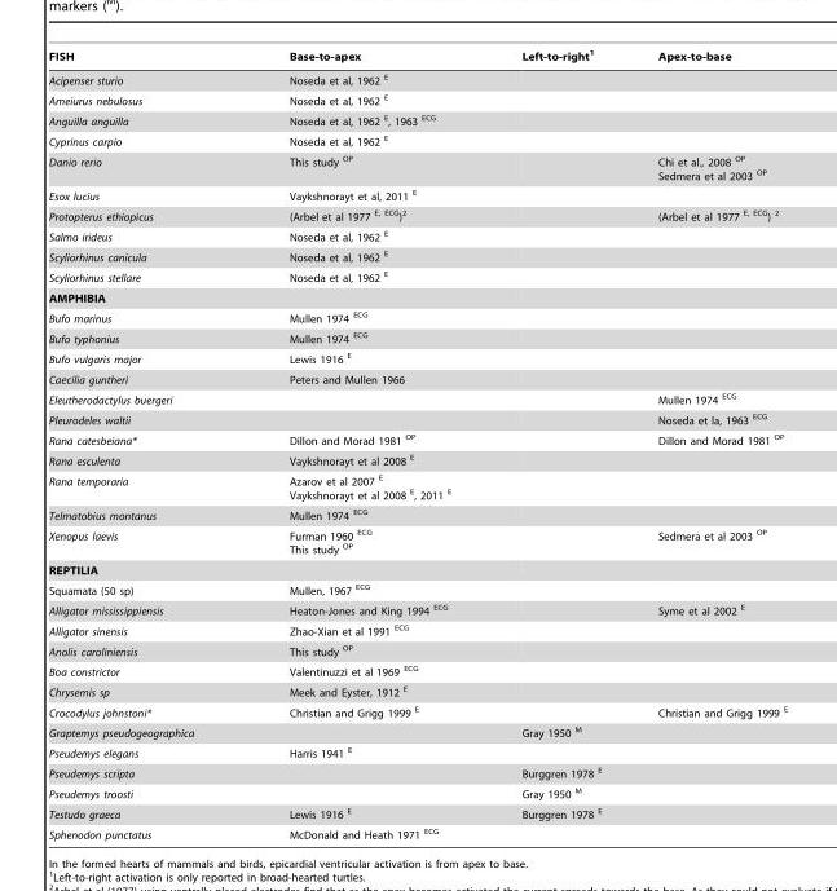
<table><thead><tr><td>FISH</td><td>Base-to-apex</td><td>Left-to-right<sup>1</sup></td><td>Apex-to-base</td></tr></thead><tbody><tr><td>Acipenser sturio</td><td>Noseda et al, 1962 <sup>E</sup></td><td></td><td></td></tr><tr><td>Ameiurus nebulosus</td><td>Noseda et al, 1962 <sup>E</sup></td><td></td><td></td></tr><tr><td>Anguilla anguilla</td><td>Noseda et al, 1962 <sup>E</sup>, 1963 <sup>ECG</sup></td><td></td><td></td></tr><tr><td>Cyprinus carpio</td><td>Noseda et al, 1962 <sup>E</sup></td><td></td><td></td></tr><tr><td>Danio rerio</td><td>This study <sup>OP</sup></td><td></td><td>Chi et al., 2008 <sup>OP</sup> Sedmera et al 2003 <sup>OP</sup></td></tr><tr><td>Esox lucius</td><td>Vaykshnorayt et al, 2011 <sup>E</sup></td><td></td><td></td></tr><tr><td>Protopterus ethiopicus</td><td>(Arbel et al 1977 <sup>E, ECG</sup>)<sup>2</sup></td><td></td><td>(Arbel et al 1977 <sup>E, ECG</sup>) 2</td></tr><tr><td>Salmo irideus</td><td>Noseda et al, 1962 <sup>E</sup></td><td></td><td></td></tr><tr><td>Scyliorhinus canicula</td><td>Noseda et al, 1962 <sup>E</sup></td><td></td><td></td></tr><tr><td>Scyliorhinus stellare</td><td>Noseda et al, 1962 <sup>E</sup></td><td></td><td></td></tr><tr><td colspan="4">AMPHIBIA</td></tr><tr><td>Bufo marinus</td><td>Mullen 1974 <sup>ECG</sup></td><td></td><td></td></tr><tr><td>Bufo typhonius</td><td>Mullen 1974 <sup>ECG</sup></td><td></td><td></td></tr><tr><td>Bufo vulgaris major</td><td>Lewis 1916 <sup>E</sup></td><td></td><td></td></tr><tr><td>Caecilia guntheri</td><td>Peters and Mullen 1966</td><td></td><td></td></tr><tr><td>Eleutherodactylus buergeri</td><td></td><td></td><td>Mullen 1974 <sup>ECG</sup></td></tr><tr><td>Pleurodeles waltii</td><td></td><td></td><td>Noseda et la, 1963 <sup>ECG</sup></td></tr><tr><td>Rana catesbeiana*</td><td>Dillon and Morad 1981 <sup>OP</sup></td><td></td><td>Dillon and Morad 1981 <sup>OP</sup></td></tr><tr><td>Rana esculenta</td><td>Vaykshnorayt et al 2008 <sup>E</sup></td><td></td><td></td></tr><tr><td>Rana temporaria</td><td>Azarov et al 2007 <sup>E</sup> Vaykshnorayt et al 2008 <sup>E</sup>, 2011 <sup>E</sup></td><td></td><td></td></tr><tr><td>Telmatobius montanus</td><td>Mullen 1974 <sup>ECG</sup></td><td></td><td></td></tr><tr><td>Xenopus laevis</td><td>Furman 1960 <sup>ECG</sup> This study <sup>OP</sup></td><td></td><td>Sedmera et al 2003 <sup>OP</sup></td></tr><tr><td colspan="4">REPTILIA</td></tr><tr><td>Squamata (50 sp)</td><td>Mullen, 1967 <sup>ECG</sup></td><td></td><td></td></tr><tr><td>Alligator mississippiensis</td><td>Heaton-Jones and King 1994 <sup>ECG</sup></td><td></td><td>Syme et al 2002 <sup>E</sup></td></tr><tr><td>Alligator sinensis</td><td>Zhao-Xian et al 1991 <sup>ECG</sup></td><td></td><td></td></tr><tr><td>Anolis caroliniensis</td><td>This study <sup>OP</sup></td><td></td><td></td></tr><tr><td>Boa constrictor</td><td>Valentinuzzi et al 1969 <sup>ECG</sup></td><td></td><td></td></tr><tr><td>Chrysemis sp</td><td>Meek and Eyster, 1912 <sup>E</sup></td><td></td><td></td></tr><tr><td>Crocodylus johnstoni*</td><td>Christian and Grigg 1999 <sup>E</sup></td><td></td><td>Christian and Grigg 1999 <sup>E</sup></td></tr><tr><td>Graptemys pseudogeographica</td><td></td><td>Gray 1950 <sup>M</sup></td><td></td></tr><tr><td>Pseudemys elegans</td><td>Harris 1941 <sup>E</sup></td><td></td><td></td></tr><tr><td>Pseudemys scripta</td><td></td><td>Burggren 1978 <sup>E</sup></td><td></td></tr><tr><td>Pseudemys troosti</td><td></td><td>Gray 1950 <sup>M</sup></td><td></td></tr><tr><td>Testudo graeca</td><td>Lewis 1916 <sup>E</sup></td><td>Burggren 1978 <sup>E</sup></td><td></td></tr><tr><td>Sphenodon punctatus</td><td>McDonald and Heath 1971 <sup>ECG</sup></td><td></td><td></td></tr></tbody></table>